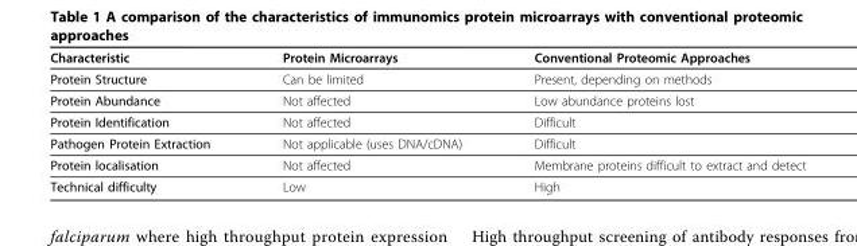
<table><thead><tr><td>Characteristic</td><td>Protein Microarrays</td><td>Conventional Proteomic Approaches</td></tr></thead><tbody><tr><td>Protein Structure</td><td>Can be limited</td><td>Present, depending on methods</td></tr><tr><td>Protein Abundance</td><td>Not affected</td><td>Low abundance proteins lost</td></tr><tr><td>Protein Identification</td><td>Not affected</td><td>Difficult</td></tr><tr><td>Pathogen Protein Extraction</td><td>Not applicable (uses DNA/cDNA)</td><td>Difficult</td></tr><tr><td>Protein localisation</td><td>Not affected</td><td>Membrane proteins difficult to extract and detect</td></tr><tr><td>Technical difficulty</td><td>Low</td><td>High</td></tr></tbody></table>